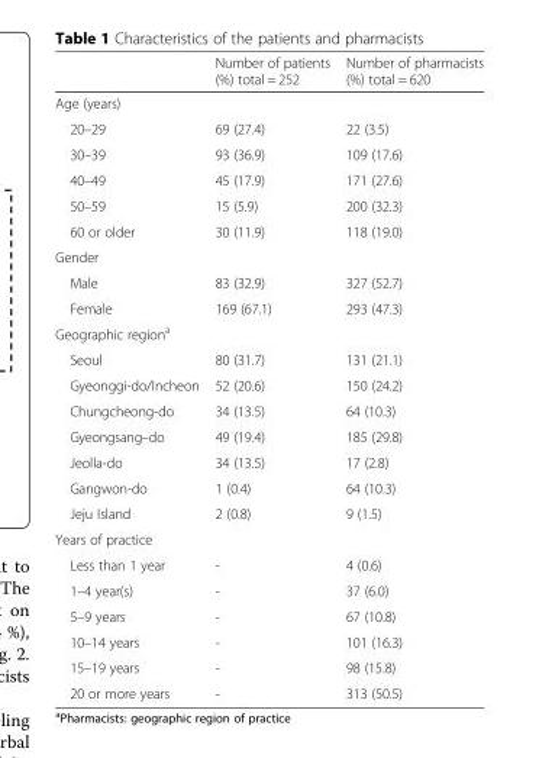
<table><thead><tr><td></td><td>Number of patients (%) total = 252</td><td>Number of pharmacists (%) total = 620</td></tr></thead><tbody><tr><td colspan="3">Age (years)</td></tr><tr><td>20–29</td><td>69 (27.4)</td><td>22 (3.5)</td></tr><tr><td>30–39</td><td>93 (36.9)</td><td>109 (17.6)</td></tr><tr><td>40–49</td><td>45 (17.9)</td><td>171 (27.6)</td></tr><tr><td>50–59</td><td>15 (5.9)</td><td>200 (32.3)</td></tr><tr><td>60 or older</td><td>30 (11.9)</td><td>118 (19.0)</td></tr><tr><td colspan="3">Gender</td></tr><tr><td>Male</td><td>83 (32.9)</td><td>327 (52.7)</td></tr><tr><td>Female</td><td>169 (67.1)</td><td>293 (47.3)</td></tr><tr><td colspan="3">Geographic region<sup>a</sup></td></tr><tr><td>Seoul</td><td>80 (31.7)</td><td>131 (21.1)</td></tr><tr><td>Gyeonggi-do/Incheon</td><td>52 (20.6)</td><td>150 (24.2)</td></tr><tr><td>Chungcheong-do</td><td>34 (13.5)</td><td>64 (10.3)</td></tr><tr><td>Gyeongsang–do</td><td>49 (19.4)</td><td>185 (29.8)</td></tr><tr><td>Jeolla-do</td><td>34 (13.5)</td><td>17 (2.8)</td></tr><tr><td>Gangwon-do</td><td>1 (0.4)</td><td>64 (10.3)</td></tr><tr><td>Jeju Island</td><td>2 (0.8)</td><td>9 (1.5)</td></tr><tr><td colspan="3">Years of practice</td></tr><tr><td>Less than 1 year</td><td>-</td><td>4 (0.6)</td></tr><tr><td>1–4 year(s)</td><td>-</td><td>37 (6.0)</td></tr><tr><td>5–9 years</td><td>-</td><td>67 (10.8)</td></tr><tr><td>10–14 years</td><td>-</td><td>101 (16.3)</td></tr><tr><td>15–19 years</td><td>-</td><td>98 (15.8)</td></tr><tr><td>20 or more years</td><td>-</td><td>313 (50.5)</td></tr></tbody></table>